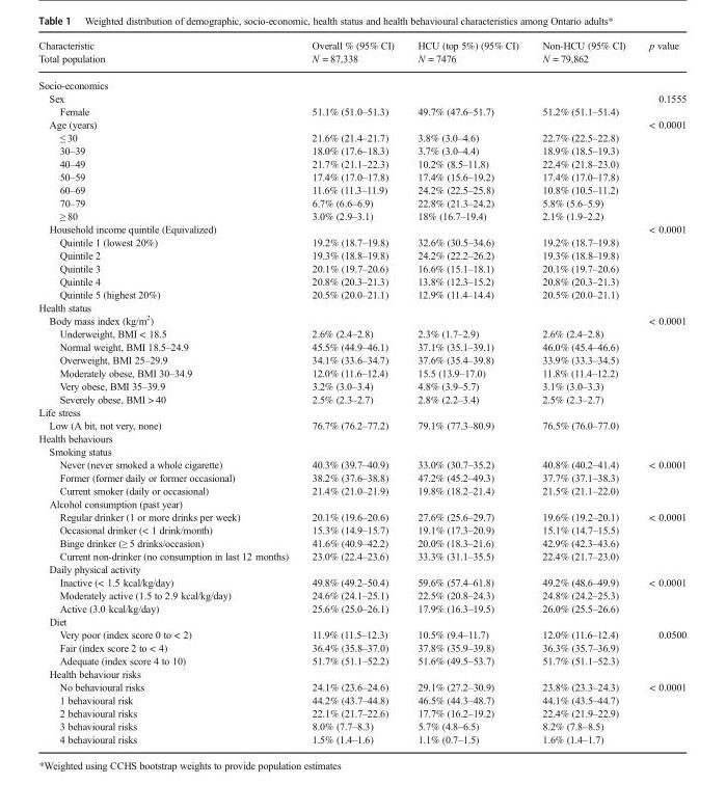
<table><thead><tr><td rowspan="2">Characteristic Total population</td><td rowspan="2">Overall % (95% CI) N = 87,338</td><td rowspan="2">HCU (top 5%) (95% CI) N = 7476</td><td rowspan="2">Non-HCU (95% CI) N = 79,862</td><td rowspan="2">p value</td></tr><tr></tr></thead><tbody><tr><td colspan="5">Socio-economics</td></tr><tr><td>Sex</td><td></td><td></td><td></td><td>0.1555</td></tr><tr><td>Female</td><td>51.1% (51.0–51.3)</td><td>49.7% (47.6–51.7)</td><td>51.2% (51.1–51.4)</td><td></td></tr><tr><td>Age (years)</td><td></td><td></td><td></td><td>&lt; 0.0001</td></tr><tr><td>≤ 30</td><td>21.6% (21.4–21.7)</td><td>3.8% (3.0–4.6)</td><td>22.7% (22.5–22.8)</td><td></td></tr><tr><td>30–39</td><td>18.0% (17.6–18.3)</td><td>3.7% (3.0–4.4)</td><td>18.9% (18.5–19.3)</td><td></td></tr><tr><td>40–49</td><td>21.7% (21.1–22.3)</td><td>10.2% (8.5–11.8)</td><td>22.4% (21.8–23.0)</td><td></td></tr><tr><td>50–59</td><td>17.4% (17.0–17.8)</td><td>17.4% (15.6–19.2)</td><td>17.4% (17.0–17.8)</td><td></td></tr><tr><td>60–69</td><td>11.6% (11.3–11.9)</td><td>24.2% (22.5–25.8)</td><td>10.8% (10.5–11.2)</td><td></td></tr><tr><td>70–79</td><td>6.7% (6.6–6.9)</td><td>22.8% (21.3–24.2)</td><td>5.8% (5.6–5.9)</td><td></td></tr><tr><td>≥ 80</td><td>3.0% (2.9–3.1)</td><td>18% (16.7–19.4)</td><td>2.1% (1.9–2.2)</td><td></td></tr><tr><td>Household income quintile (Equivalized)</td><td></td><td></td><td></td><td>&lt; 0.0001</td></tr><tr><td>Quintile 1 (lowest 20%)</td><td>19.2% (18.7–19.8)</td><td>32.6% (30.5–34.6)</td><td>19.2% (18.7–19.8)</td><td></td></tr><tr><td>Quintile 2</td><td>19.3% (18.8–19.8)</td><td>24.2% (22.2–26.2)</td><td>19.3% (18.8–19.8)</td><td></td></tr><tr><td>Quintile 3</td><td>20.1% (19.7–20.6)</td><td>16.6% (15.1–18.1)</td><td>20.1% (19.7–20.6)</td><td></td></tr><tr><td>Quintile 4</td><td>20.8% (20.3–21.3)</td><td>13.8% (12.3–15.2)</td><td>20.8% (20.3–21.3)</td><td></td></tr><tr><td>Quintile 5 (highest 20%)</td><td>20.5% (20.0–21.1)</td><td>12.9% (11.4–14.4)</td><td>20.5% (20.0–21.1)</td><td></td></tr><tr><td colspan="5">Health status</td></tr><tr><td>Body mass index (kg/m<sup>2</sup>)</td><td></td><td></td><td></td><td>&lt; 0.0001</td></tr><tr><td>Underweight, BMI &lt; 18.5</td><td>2.6% (2.4–2.8)</td><td>2.3% (1.7–2.9)</td><td>2.6% (2.4–2.8)</td><td></td></tr><tr><td>Normal weight, BMI 18.5–24.9</td><td>45.5% (44.9–46.1)</td><td>37.1% (35.1–39.1)</td><td>46.0% (45.4–46.6)</td><td></td></tr><tr><td>Overweight, BMI 25–29.9</td><td>34.1% (33.6–34.7)</td><td>37.6% (35.4–39.8)</td><td>33.9% (33.3–34.5)</td><td></td></tr><tr><td>Moderately obese, BMI 30–34.9</td><td>12.0% (11.6–12.4)</td><td>15.5 (13.9–17.0)</td><td>11.8% (11.4–12.2)</td><td></td></tr><tr><td>Very obese, BMI 35–39.9</td><td>3.2% (3.0–3.4)</td><td>4.8% (3.9–5.7)</td><td>3.1% (3.0–3.3)</td><td></td></tr><tr><td>Severely obese, BMI &gt; 40</td><td>2.5% (2.3–2.7)</td><td>2.8% (2.2–3.4)</td><td>2.5% (2.3–2.7)</td><td></td></tr><tr><td colspan="5">Life stress</td></tr><tr><td>Low (A bit, not very, none)</td><td>76.7% (76.2–77.2)</td><td>79.1% (77.3–80.9)</td><td>76.5% (76.0–77.0)</td><td></td></tr><tr><td colspan="5">Health behaviours</td></tr><tr><td colspan="5">Smoking status</td></tr><tr><td>Never (never smoked a whole cigarette)</td><td>40.3% (39.7–40.9)</td><td>33.0% (30.7–35.2)</td><td>40.8% (40.2–41.4)</td><td>&lt; 0.0001</td></tr><tr><td>Former (former daily or former occasional)</td><td>38.2% (37.6–38.8)</td><td>47.2% (45.2–49.3)</td><td>37.7% (37.1–38.3)</td><td></td></tr><tr><td>Current smoker (daily or occasional)</td><td>21.4% (21.0–21.9)</td><td>19.8% (18.2–21.4)</td><td>21.5% (21.1–22.0)</td><td></td></tr><tr><td colspan="5">Alcohol consumption (past year)</td></tr><tr><td>Regular drinker (1 or more drinks per week)</td><td>20.1% (19.6–20.6)</td><td>27.6% (25.6–29.7)</td><td>19.6% (19.2–20.1)</td><td>&lt; 0.0001</td></tr><tr><td>Occasional drinker (&lt; 1 drink/month)</td><td>15.3% (14.9–15.7)</td><td>19.1% (17.3–20.9)</td><td>15.1% (14.7–15.5)</td><td></td></tr><tr><td>Binge drinker (≥ 5 drinks/occasion)</td><td>41.6% (40.9–42.2)</td><td>20.0% (18.3–21.6)</td><td>42.9% (42.3–43.6)</td><td></td></tr><tr><td>Current non-drinker (no consumption in last 12 months)</td><td>23.0% (22.4–23.6)</td><td>33.3% (31.1–35.5)</td><td>22.4% (21.7–23.0)</td><td></td></tr><tr><td colspan="5">Daily physical activity</td></tr><tr><td>Inactive (&lt; 1.5 kcal/kg/day)</td><td>49.8% (49.2–50.4)</td><td>59.6% (57.4–61.8)</td><td>49.2% (48.6–49.9)</td><td>&lt; 0.0001</td></tr><tr><td>Moderately active (1.5 to 2.9 kcal/kg/day)</td><td>24.6% (24.1–25.1)</td><td>22.5% (20.8–24.3)</td><td>24.8% (24.2–25.3)</td><td></td></tr><tr><td>Active (3.0 kcal/kg/day)</td><td>25.6% (25.0–26.1)</td><td>17.9% (16.3–19.5)</td><td>26.0% (25.5–26.6)</td><td></td></tr><tr><td colspan="5">Diet</td></tr><tr><td>Very poor (index score 0 to &lt; 2)</td><td>11.9% (11.5–12.3)</td><td>10.5% (9.4–11.7)</td><td>12.0% (11.6–12.4)</td><td>0.0500</td></tr><tr><td>Fair (index score 2 to &lt; 4)</td><td>36.4% (35.8–37.0)</td><td>37.8% (35.9–39.8)</td><td>36.3% (35.7–36.9)</td><td></td></tr><tr><td>Adequate (index score 4 to 10)</td><td>51.7% (51.1–52.2)</td><td>51.6% (49.5–53.7)</td><td>51.7% (51.1–52.3)</td><td></td></tr><tr><td colspan="5">Health behaviour risks</td></tr><tr><td>No behavioural risks</td><td>24.1% (23.6–24.6)</td><td>29.1% (27.2–30.9)</td><td>23.8% (23.3–24.3)</td><td>&lt; 0.0001</td></tr><tr><td>1 behavioural risk</td><td>44.2% (43.7–44.8)</td><td>46.5% (44.3–48.7)</td><td>44.1% (43.5–44.7)</td><td></td></tr><tr><td>2 behavioural risks</td><td>22.1% (21.7–22.6)</td><td>17.7% (16.2–19.2)</td><td>22.4% (21.9–22.9)</td><td></td></tr><tr><td>3 behavioural risks</td><td>8.0% (7.7–8.3)</td><td>5.7% (4.8–6.5)</td><td>8.2% (7.8–8.5)</td><td></td></tr><tr><td>4 behavioural risks</td><td>1.5% (1.4–1.6)</td><td>1.1% (0.7–1.5)</td><td>1.6% (1.4–1.7)</td><td></td></tr></tbody></table>